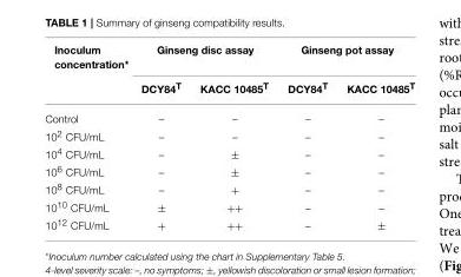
<table><thead><tr><td rowspan="2">Inoculum concentration*</td><td colspan="2">Ginseng disc assay</td><td colspan="2">Ginseng pot assay</td></tr><tr><td>DCY84<sup>T</sup></td><td>KACC 10485<sup>T</sup></td><td>DCY84<sup>T</sup></td><td>KACC 10485<sup>T</sup></td></tr></thead><tbody><tr><td>Control</td><td>–</td><td>–</td><td>–</td><td>–</td></tr><tr><td>10<sup>2</sup> CFU/mL</td><td>–</td><td>–</td><td>–</td><td>–</td></tr><tr><td>10<sup>4</sup> CFU/mL</td><td>–</td><td>±</td><td>–</td><td>–</td></tr><tr><td>10<sup>6</sup> CFU/mL</td><td>–</td><td>±</td><td>–</td><td>–</td></tr><tr><td>10<sup>8</sup> CFU/mL</td><td>–</td><td>+</td><td>–</td><td>–</td></tr><tr><td>10<sup>10</sup> CFU/mL</td><td>±</td><td>++</td><td>–</td><td>–</td></tr><tr><td>10<sup>12</sup> CFU/mL</td><td>+</td><td>++</td><td>–</td><td>±</td></tr></tbody></table>